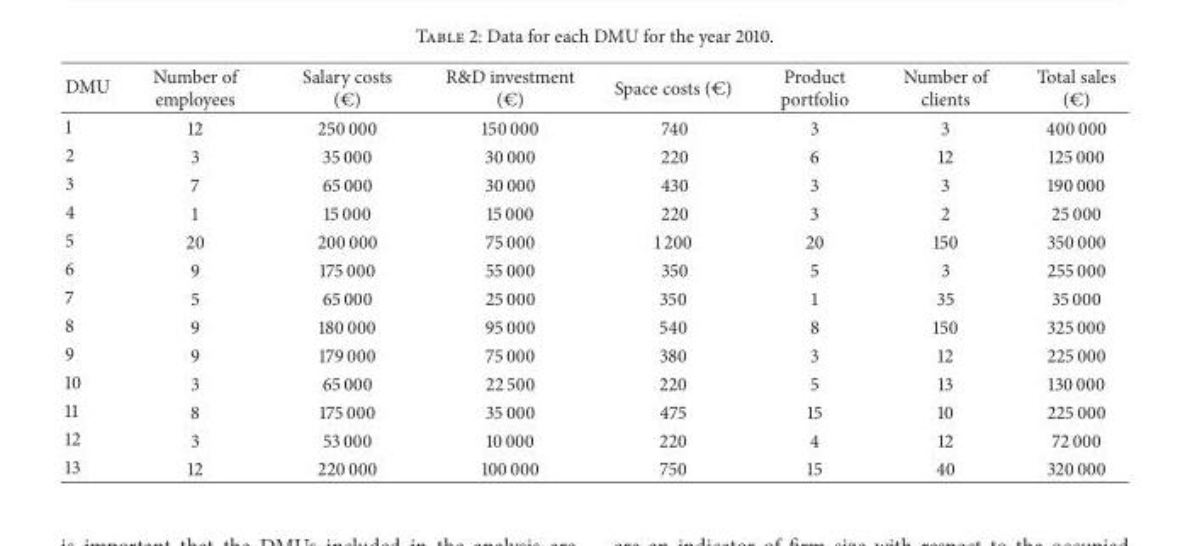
<table><thead><tr><td>DMU</td><td>Number of employees</td><td>Salary costs (€)</td><td>R&amp;D investment (€)</td><td>Space costs (€)</td><td>Product portfolio</td><td>Number of clients</td><td>Total sales (€)</td></tr></thead><tbody><tr><td>1</td><td>12</td><td>250 000</td><td>150 000</td><td>740</td><td>3</td><td>3</td><td>400 000</td></tr><tr><td>2</td><td>3</td><td>35 000</td><td>30 000</td><td>220</td><td>6</td><td>12</td><td>125 000</td></tr><tr><td>3</td><td>7</td><td>65 000</td><td>30 000</td><td>430</td><td>3</td><td>3</td><td>190 000</td></tr><tr><td>4</td><td>1</td><td>15 000</td><td>15 000</td><td>220</td><td>3</td><td>2</td><td>25 000</td></tr><tr><td>5</td><td>20</td><td>200 000</td><td>75 000</td><td>1 200</td><td>20</td><td>150</td><td>350 000</td></tr><tr><td>6</td><td>9</td><td>175 000</td><td>55 000</td><td>350</td><td>5</td><td>3</td><td>255 000</td></tr><tr><td>7</td><td>5</td><td>65 000</td><td>25 000</td><td>350</td><td>1</td><td>35</td><td>35 000</td></tr><tr><td>8</td><td>9</td><td>180 000</td><td>95 000</td><td>540</td><td>8</td><td>150</td><td>325 000</td></tr><tr><td>9</td><td>9</td><td>179 000</td><td>75 000</td><td>380</td><td>3</td><td>12</td><td>225 000</td></tr><tr><td>10</td><td>3</td><td>65 000</td><td>22 500</td><td>220</td><td>5</td><td>13</td><td>130 000</td></tr><tr><td>11</td><td>8</td><td>175 000</td><td>35 000</td><td>475</td><td>15</td><td>10</td><td>225 000</td></tr><tr><td>12</td><td>3</td><td>53 000</td><td>10 000</td><td>220</td><td>4</td><td>12</td><td>72 000</td></tr><tr><td>13</td><td>12</td><td>220 000</td><td>100 000</td><td>750</td><td>15</td><td>40</td><td>320 000</td></tr></tbody></table>